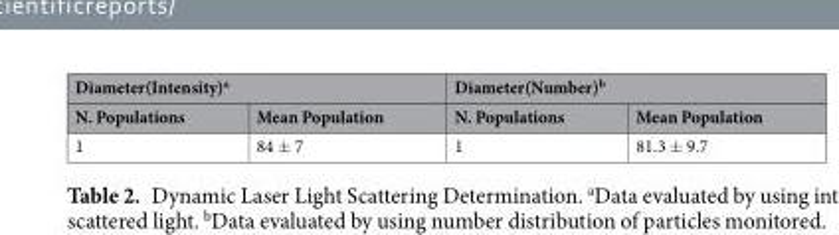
<table><thead><tr><td colspan="2">Diameter(Intensity)<sup>a</sup></td><td colspan="2">Diameter(Number)<sup>b</sup></td></tr><tr><td>N. Populations</td><td>Mean Population</td><td>N. Populations</td><td>Mean Population</td></tr></thead><tbody><tr><td>1</td><td>84 ± 7</td><td>1</td><td>81.3 ± 9.7</td></tr></tbody></table>